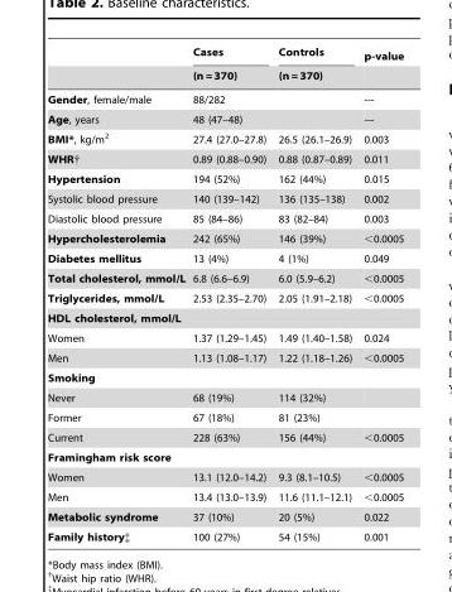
<table><thead><tr><td rowspan="2"></td><td rowspan="2">Cases (n = 370)</td><td rowspan="2">Controls (n = 370)</td><td rowspan="2">p-value</td></tr><tr></tr></thead><tbody><tr><td>Gender, female/male</td><td colspan="2">88/282</td><td>---</td></tr><tr><td>Age, years</td><td colspan="2">48 (47–48)</td><td>---</td></tr><tr><td>BMI*, kg/m<sup>2</sup></td><td>27.4 (27.0–27.8)</td><td>26.5 (26.1–26.9)</td><td>0.003</td></tr><tr><td>WHR†</td><td>0.89 (0.88–0.90)</td><td>0.88 (0.87–0.89)</td><td>0.011</td></tr><tr><td>Hypertension</td><td>194 (52%)</td><td>162 (44%)</td><td>0.015</td></tr><tr><td>Systolic blood pressure</td><td>140 (139–142)</td><td>136 (135–138)</td><td>0.002</td></tr><tr><td>Diastolic blood pressure</td><td>85 (84–86)</td><td>83 (82–84)</td><td>0.003</td></tr><tr><td>Hypercholesterolemia</td><td>242 (65%)</td><td>146 (39%)</td><td>&lt;0.0005</td></tr><tr><td>Diabetes mellitus</td><td>13 (4%)</td><td>4 (1%)</td><td>0.049</td></tr><tr><td>Total cholesterol, mmol/L</td><td>6.8 (6.6–6.9)</td><td>6.0 (5.9–6.2)</td><td>&lt;0.0005</td></tr><tr><td>Triglycerides, mmol/L</td><td>2.53 (2.35–2.70)</td><td>2.05 (1.91–2.18)</td><td>&lt;0.0005</td></tr><tr><td colspan="4">HDL cholesterol, mmol/L</td></tr><tr><td>Women</td><td>1.37 (1.29–1.45)</td><td>1.49 (1.40–1.58)</td><td>0.024</td></tr><tr><td>Men</td><td>1.13 (1.08–1.17)</td><td>1.22 (1.18–1.26)</td><td>&lt;0.0005</td></tr><tr><td colspan="4">Smoking</td></tr><tr><td>Never</td><td>68 (19%)</td><td>114 (32%)</td><td></td></tr><tr><td>Former</td><td>67 (18%)</td><td>81 (23%)</td><td></td></tr><tr><td>Current</td><td>228 (63%)</td><td>156 (44%)</td><td>&lt;0.0005</td></tr><tr><td colspan="4">Framingham risk score</td></tr><tr><td>Women</td><td>13.1 (12.0–14.2)</td><td>9.3 (8.1–10.5)</td><td>&lt;0.0005</td></tr><tr><td>Men</td><td>13.4 (13.0–13.9)</td><td>11.6 (11.1–12.1)</td><td>&lt;0.0005</td></tr><tr><td>Metabolic syndrome</td><td>37 (10%)</td><td>20 (5%)</td><td>0.022</td></tr><tr><td>Family history‡</td><td>100 (27%)</td><td>54 (15%)</td><td>0.001</td></tr></tbody></table>